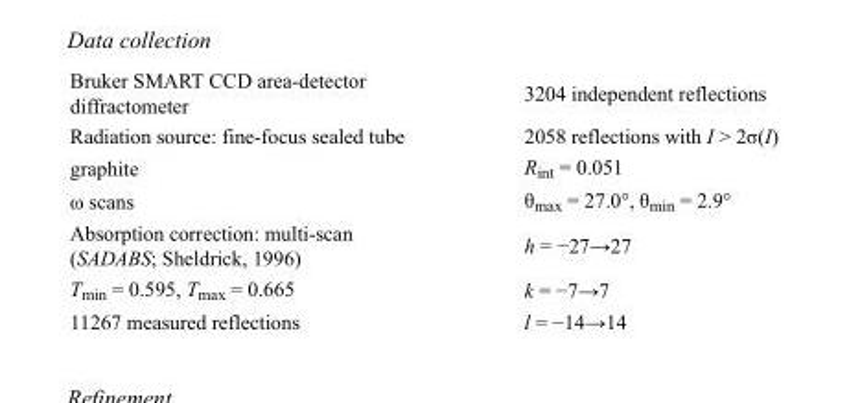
<table><tbody><tr><td>Bruker SMART CCD area-detector diffractometer</td><td>3204 independent reflections</td></tr><tr><td>Radiation source: fine-focus sealed tube</td><td>2058 reflections with I &gt; 2σ(I)</td></tr><tr><td>graphite</td><td>R<sub>int</sub> = 0.051</td></tr><tr><td>ω scans</td><td>θ<sub>max</sub> = 27.0°, θ<sub>min</sub> = 2.9°</td></tr><tr><td>Absorption correction: multi-scan (SADABS; Sheldrick, 1996)</td><td>h = −27→27</td></tr><tr><td>T<sub>min</sub> = 0.595, T<sub>max</sub> = 0.665</td><td>k = −7→7</td></tr><tr><td>11267 measured reflections</td><td>l = −14→14</td></tr></tbody></table>